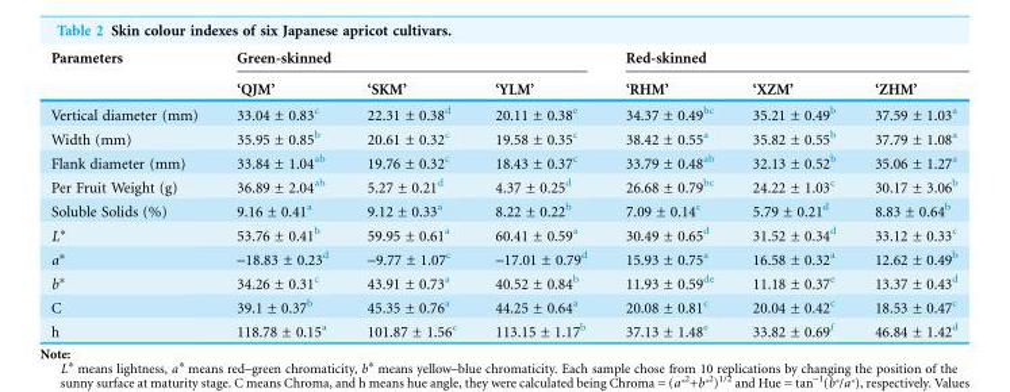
<table><thead><tr><td rowspan="2">Parameters</td><td colspan="3">Green-skinned</td><td colspan="3">Red-skinned</td></tr><tr><td>‘QJM’</td><td>‘SKM’</td><td>‘YLM’</td><td>‘RHM’</td><td>‘XZM’</td><td>‘ZHM’</td></tr></thead><tbody><tr><td>Vertical diameter (mm)</td><td>33.04 ± 0.83<sup>c</sup></td><td>22.31 ± 0.38<sup>d</sup></td><td>20.11 ± 0.38<sup>e</sup></td><td>34.37 ± 0.49<sup>bc</sup></td><td>35.21 ± 0.49<sup>b</sup></td><td>37.59 ± 1.03<sup>a</sup></td></tr><tr><td>Width (mm)</td><td>35.95 ± 0.85<sup>b</sup></td><td>20.61 ± 0.32<sup>c</sup></td><td>19.58 ± 0.35<sup>c</sup></td><td>38.42 ± 0.55<sup>a</sup></td><td>35.82 ± 0.55<sup>b</sup></td><td>37.79 ± 1.08<sup>a</sup></td></tr><tr><td>Flank diameter (mm)</td><td>33.84 ± 1.04<sup>ab</sup></td><td>19.76 ± 0.32<sup>c</sup></td><td>18.43 ± 0.37<sup>c</sup></td><td>33.79 ± 0.48<sup>ab</sup></td><td>32.13 ± 0.52<sup>b</sup></td><td>35.06 ± 1.27<sup>a</sup></td></tr><tr><td>Per Fruit Weight (g)</td><td>36.89 ± 2.04<sup>ab</sup></td><td>5.27 ± 0.21<sup>d</sup></td><td>4.37 ± 0.25<sup>d</sup></td><td>26.68 ± 0.79<sup>bc</sup></td><td>24.22 ± 1.03<sup>c</sup></td><td>30.17 ± 3.06<sup>b</sup></td></tr><tr><td>Soluble Solids (%)</td><td>9.16 ± 0.41<sup>a</sup></td><td>9.12 ± 0.33<sup>a</sup></td><td>8.22 ± 0.22<sup>b</sup></td><td>7.09 ± 0.14<sup>c</sup></td><td>5.79 ± 0.21<sup>d</sup></td><td>8.83 ± 0.64<sup>b</sup></td></tr><tr><td>L*</td><td>53.76 ± 0.41<sup>b</sup></td><td>59.95 ± 0.61<sup>a</sup></td><td>60.41 ± 0.59<sup>a</sup></td><td>30.49 ± 0.65<sup>d</sup></td><td>31.52 ± 0.34<sup>d</sup></td><td>33.12 ± 0.33<sup>c</sup></td></tr><tr><td>a*</td><td>-18.83 ± 0.23<sup>d</sup></td><td>-9.77 ± 1.07<sup>c</sup></td><td>-17.01 ± 0.79<sup>d</sup></td><td>15.93 ± 0.75<sup>a</sup></td><td>16.58 ± 0.32<sup>a</sup></td><td>12.62 ± 0.49<sup>b</sup></td></tr><tr><td>b*</td><td>34.26 ± 0.31<sup>c</sup></td><td>43.91 ± 0.73<sup>a</sup></td><td>40.52 ± 0.84<sup>b</sup></td><td>11.93 ± 0.59<sup>de</sup></td><td>11.18 ± 0.37<sup>e</sup></td><td>13.37 ± 0.43<sup>d</sup></td></tr><tr><td>C</td><td>39.1 ± 0.37<sup>b</sup></td><td>45.35 ± 0.76<sup>a</sup></td><td>44.25 ± 0.64<sup>a</sup></td><td>20.08 ± 0.81<sup>c</sup></td><td>20.04 ± 0.42<sup>c</sup></td><td>18.53 ± 0.47<sup>c</sup></td></tr><tr><td>h</td><td>118.78 ± 0.15<sup>a</sup></td><td>101.87 ± 1.56<sup>c</sup></td><td>113.15 ± 1.17<sup>b</sup></td><td>37.13 ± 1.48<sup>e</sup></td><td>33.82 ± 0.69<sup>f</sup></td><td>46.84 ± 1.42<sup>d</sup></td></tr></tbody></table>